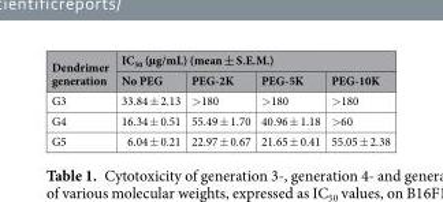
<table><thead><tr><td rowspan="2">Dendrimer generation</td><td colspan="4">IC<sub>50</sub> (µg/mL) (mean ± S.E.M.)</td></tr><tr><td>No PEG</td><td>PEG-2K</td><td>PEG-5K</td><td>PEG-10K</td></tr></thead><tbody><tr><td>G3</td><td>33.84 ± 2.13</td><td>&gt;180</td><td>&gt;180</td><td>&gt;180</td></tr><tr><td>G4</td><td>16.34 ± 0.51</td><td>55.49 ± 1.70</td><td>40.96 ± 1.18</td><td>&gt;60</td></tr><tr><td>G5</td><td>6.04 ± 0.21</td><td>22.97 ± 0.67</td><td>21.65 ± 0.41</td><td>55.05 ± 2.38</td></tr></tbody></table>